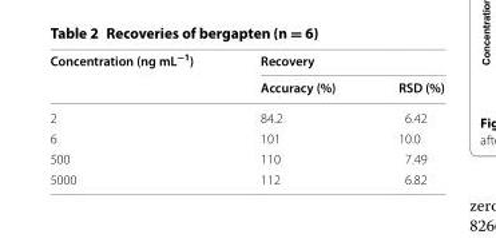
<table><thead><tr><td rowspan="2">Concentration (ng mL<sup>−1</sup>)</td><td colspan="2">Recovery</td></tr><tr><td>Accuracy (%)</td><td>RSD (%)</td></tr></thead><tbody><tr><td>2</td><td>84.2</td><td>6.42</td></tr><tr><td>6</td><td>101</td><td>10.0</td></tr><tr><td>500</td><td>110</td><td>7.49</td></tr><tr><td>5000</td><td>112</td><td>6.82</td></tr></tbody></table>